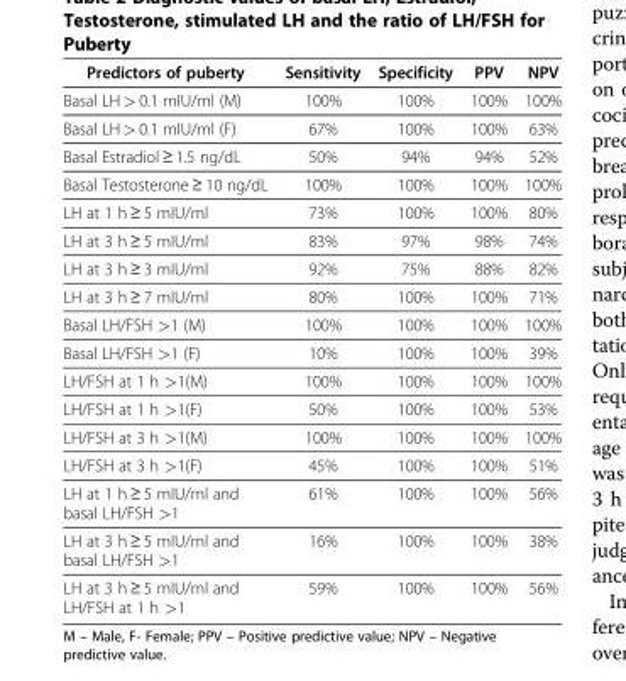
<table><thead><tr><td>Predictors of puberty</td><td>Sensitivity</td><td>Specificity</td><td>PPV</td><td>NPV</td></tr></thead><tbody><tr><td>Basal LH &gt; 0.1 mIU/ml (M)</td><td>100%</td><td>100%</td><td>100%</td><td>100%</td></tr><tr><td>Basal LH &gt; 0.1 mIU/ml (F)</td><td>67%</td><td>100%</td><td>100%</td><td>63%</td></tr><tr><td>Basal Estradiol ≥ 1.5 ng/dL</td><td>50%</td><td>94%</td><td>94%</td><td>52%</td></tr><tr><td>Basal Testosterone ≥ 10 ng/dL</td><td>100%</td><td>100%</td><td>100%</td><td>100%</td></tr><tr><td>LH at 1 h ≥ 5 mIU/ml</td><td>73%</td><td>100%</td><td>100%</td><td>80%</td></tr><tr><td>LH at 3 h ≥ 5 mIU/ml</td><td>83%</td><td>97%</td><td>98%</td><td>74%</td></tr><tr><td>LH at 3 h ≥ 3 mIU/ml</td><td>92%</td><td>75%</td><td>88%</td><td>82%</td></tr><tr><td>LH at 3 h ≥ 7 mIU/ml</td><td>80%</td><td>100%</td><td>100%</td><td>71%</td></tr><tr><td>Basal LH/FSH &gt;1 (M)</td><td>100%</td><td>100%</td><td>100%</td><td>100%</td></tr><tr><td>Basal LH/FSH &gt;1 (F)</td><td>10%</td><td>100%</td><td>100%</td><td>39%</td></tr><tr><td>LH/FSH at 1 h &gt;1(M)</td><td>100%</td><td>100%</td><td>100%</td><td>100%</td></tr><tr><td>LH/FSH at 1 h &gt;1(F)</td><td>50%</td><td>100%</td><td>100%</td><td>53%</td></tr><tr><td>LH/FSH at 3 h &gt;1(M)</td><td>100%</td><td>100%</td><td>100%</td><td>100%</td></tr><tr><td>LH/FSH at 3 h &gt;1(F)</td><td>45%</td><td>100%</td><td>100%</td><td>51%</td></tr><tr><td>LH at 1 h ≥ 5 mIU/ml and basal LH/FSH &gt;1</td><td>61%</td><td>100%</td><td>100%</td><td>56%</td></tr><tr><td>LH at 3 h ≥ 5 mIU/ml and basal LH/FSH &gt;1</td><td>16%</td><td>100%</td><td>100%</td><td>38%</td></tr><tr><td>LH at 3 h ≥ 5 mIU/ml and LH/FSH at 1 h &gt;1</td><td>59%</td><td>100%</td><td>100%</td><td>56%</td></tr></tbody></table>